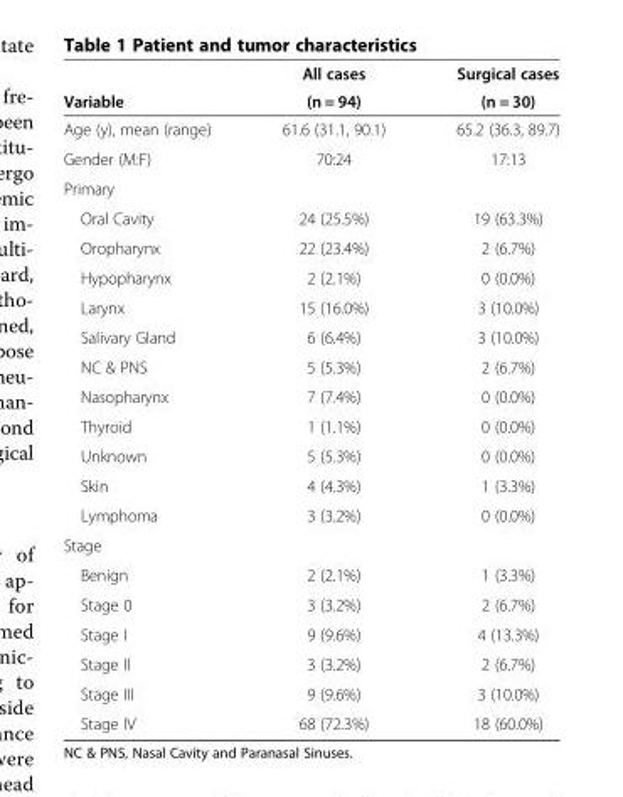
<table><thead><tr><td rowspan="2">Variable</td><td rowspan="2">All cases (n = 94)</td><td rowspan="2">Surgical cases (n = 30)</td></tr><tr></tr></thead><tbody><tr><td>Age (y), mean (range)</td><td>61.6 (31.1, 90.1)</td><td>65.2 (36.3, 89.7)</td></tr><tr><td>Gender (M:F)</td><td>70:24</td><td>17:13</td></tr><tr><td colspan="3">Primary</td></tr><tr><td>Oral Cavity</td><td>24 (25.5%)</td><td>19 (63.3%)</td></tr><tr><td>Oropharynx</td><td>22 (23.4%)</td><td>2 (6.7%)</td></tr><tr><td>Hypopharynx</td><td>2 (2.1%)</td><td>0 (0.0%)</td></tr><tr><td>Larynx</td><td>15 (16.0%)</td><td>3 (10.0%)</td></tr><tr><td>Salivary Gland</td><td>6 (6.4%)</td><td>3 (10.0%)</td></tr><tr><td>NC &amp; PNS</td><td>5 (5.3%)</td><td>2 (6.7%)</td></tr><tr><td>Nasopharynx</td><td>7 (7.4%)</td><td>0 (0.0%)</td></tr><tr><td>Thyroid</td><td>1 (1.1%)</td><td>0 (0.0%)</td></tr><tr><td>Unknown</td><td>5 (5.3%)</td><td>0 (0.0%)</td></tr><tr><td>Skin</td><td>4 (4.3%)</td><td>1 (3.3%)</td></tr><tr><td>Lymphoma</td><td>3 (3.2%)</td><td>0 (0.0%)</td></tr><tr><td colspan="3">Stage</td></tr><tr><td>Benign</td><td>2 (2.1%)</td><td>1 (3.3%)</td></tr><tr><td>Stage 0</td><td>3 (3.2%)</td><td>2 (6.7%)</td></tr><tr><td>Stage I</td><td>9 (9.6%)</td><td>4 (13.3%)</td></tr><tr><td>Stage II</td><td>3 (3.2%)</td><td>2 (6.7%)</td></tr><tr><td>Stage III</td><td>9 (9.6%)</td><td>3 (10.0%)</td></tr><tr><td>Stage IV</td><td>68 (72.3%)</td><td>18 (60.0%)</td></tr></tbody></table>